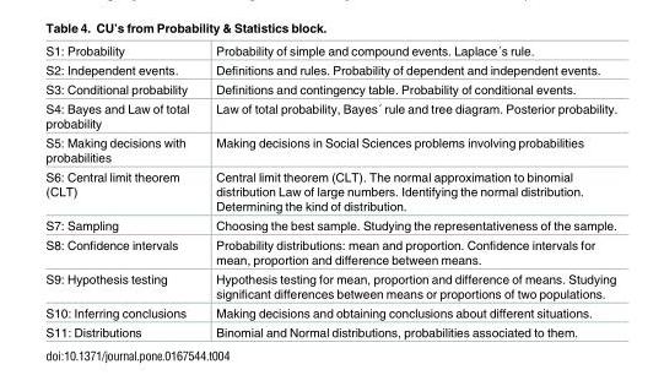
<table><tbody><tr><td>S1: Probability</td><td>Probability of simple and compound events. Laplace´s rule.</td></tr><tr><td>S2: Independent events.</td><td>Definitions and rules. Probability of dependent and independent events.</td></tr><tr><td>S3: Conditional probability</td><td>Definitions and contingency table. Probability of conditional events.</td></tr><tr><td>S4: Bayes and Law of total probability</td><td>Law of total probability, Bayes´ rule and tree diagram. Posterior probability.</td></tr><tr><td>S5: Making decisions with probabilities</td><td>Making decisions in Social Sciences problems involving probabilities</td></tr><tr><td>S6: Central limit theorem (CLT)</td><td>Central limit theorem (CLT). The normal approximation to binomial distribution Law of large numbers. Identifying the normal distribution. Determining the kind of distribution.</td></tr><tr><td>S7: Sampling</td><td>Choosing the best sample. Studying the representativeness of the sample.</td></tr><tr><td>S8: Confidence intervals</td><td>Probability distributions: mean and proportion. Confidence intervals for mean, proportion and difference between means.</td></tr><tr><td>S9: Hypothesis testing</td><td>Hypothesis testing for mean, proportion and difference of means. Studying significant differences between means or proportions of two populations.</td></tr><tr><td>S10: Inferring conclusions</td><td>Making decisions and obtaining conclusions about different situations.</td></tr><tr><td>S11: Distributions</td><td>Binomial and Normal distributions, probabilities associated to them.</td></tr></tbody></table>